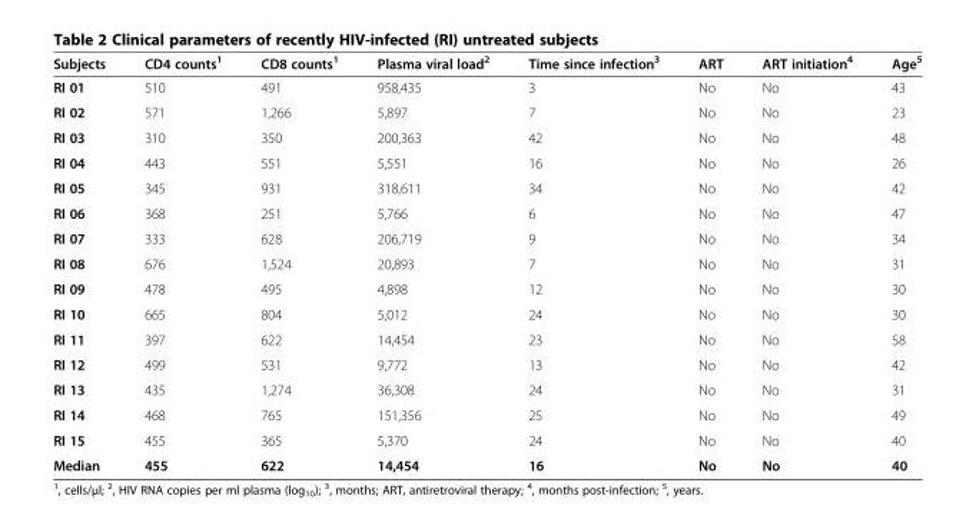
<table><thead><tr><td>Subjects</td><td>CD4 counts<sup>1</sup></td><td>CD8 counts<sup>1</sup></td><td>Plasma viral load<sup>2</sup></td><td>Time since infection<sup>3</sup></td><td>ART</td><td>ART initiation<sup>4</sup></td><td>Age<sup>5</sup></td></tr></thead><tbody><tr><td>RI 01</td><td>510</td><td>491</td><td>958,435</td><td>3</td><td>No</td><td>No</td><td>43</td></tr><tr><td>RI 02</td><td>571</td><td>1,266</td><td>5,897</td><td>7</td><td>No</td><td>No</td><td>23</td></tr><tr><td>RI 03</td><td>310</td><td>350</td><td>200,363</td><td>42</td><td>No</td><td>No</td><td>48</td></tr><tr><td>RI 04</td><td>443</td><td>551</td><td>5,551</td><td>16</td><td>No</td><td>No</td><td>26</td></tr><tr><td>RI 05</td><td>345</td><td>931</td><td>318,611</td><td>34</td><td>No</td><td>No</td><td>42</td></tr><tr><td>RI 06</td><td>368</td><td>251</td><td>5,766</td><td>6</td><td>No</td><td>No</td><td>47</td></tr><tr><td>RI 07</td><td>333</td><td>628</td><td>206,719</td><td>9</td><td>No</td><td>No</td><td>34</td></tr><tr><td>RI 08</td><td>676</td><td>1,524</td><td>20,893</td><td>7</td><td>No</td><td>No</td><td>31</td></tr><tr><td>RI 09</td><td>478</td><td>495</td><td>4,898</td><td>12</td><td>No</td><td>No</td><td>30</td></tr><tr><td>RI 10</td><td>665</td><td>804</td><td>5,012</td><td>24</td><td>No</td><td>No</td><td>30</td></tr><tr><td>RI 11</td><td>397</td><td>622</td><td>14,454</td><td>23</td><td>No</td><td>No</td><td>58</td></tr><tr><td>RI 12</td><td>499</td><td>531</td><td>9,772</td><td>13</td><td>No</td><td>No</td><td>42</td></tr><tr><td>RI 13</td><td>435</td><td>1,274</td><td>36,308</td><td>24</td><td>No</td><td>No</td><td>31</td></tr><tr><td>RI 14</td><td>468</td><td>765</td><td>151,356</td><td>25</td><td>No</td><td>No</td><td>49</td></tr><tr><td>RI 15</td><td>455</td><td>365</td><td>5,370</td><td>24</td><td>No</td><td>No</td><td>40</td></tr><tr><td>Median</td><td>455</td><td>622</td><td>14,454</td><td>16</td><td>No</td><td>No</td><td>40</td></tr></tbody></table>